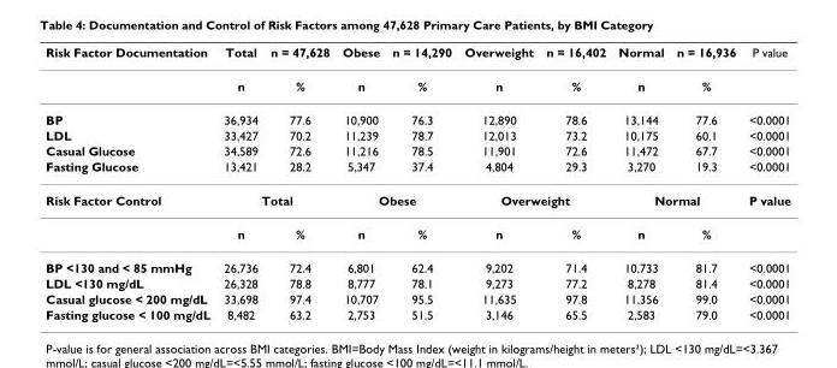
<table><thead><tr><td>Risk Factor Documentation</td><td>Total</td><td>n = 47,628</td><td>Obese</td><td>n = 14,290</td><td>Overweight</td><td>n = 16,402</td><td>Normal</td><td>n = 16,936</td><td>P value</td></tr></thead><tbody><tr><td></td><td>n</td><td>%</td><td>n</td><td>%</td><td>n</td><td>%</td><td>n</td><td>%</td><td></td></tr><tr><td>BP</td><td>36,934</td><td>77.6</td><td>10,900</td><td>76.3</td><td>12,890</td><td>78.6</td><td>13,144</td><td>77.6</td><td>&lt;0.0001</td></tr><tr><td>LDL</td><td>33,427</td><td>70.2</td><td>11,239</td><td>78.7</td><td>12,013</td><td>73.2</td><td>10,175</td><td>60.1</td><td>&lt;0.0001</td></tr><tr><td>Casual Glucose</td><td>34,589</td><td>72.6</td><td>11,216</td><td>78.5</td><td>11,901</td><td>72.6</td><td>11,472</td><td>67.7</td><td>&lt;0.0001</td></tr><tr><td>Fasting Glucose</td><td>13,421</td><td>28.2</td><td>5,347</td><td>37.4</td><td>4,804</td><td>29.3</td><td>3,270</td><td>19.3</td><td>&lt;0.0001</td></tr><tr><td rowspan="2">Risk Factor Control</td><td colspan="2">Total</td><td colspan="2">Obese</td><td colspan="2">Overweight</td><td colspan="2">Normal</td><td>P value</td></tr><tr><td>n</td><td>%</td><td>n</td><td>%</td><td>n</td><td>%</td><td>n</td><td>%</td><td></td></tr><tr><td>BP &lt;130 and &lt; 85 mmHg</td><td>26,736</td><td>72.4</td><td>6,801</td><td>62.4</td><td>9,202</td><td>71.4</td><td>10,733</td><td>81.7</td><td>&lt;0.0001</td></tr><tr><td>LDL &lt;130 mg/dL</td><td>26,328</td><td>78.8</td><td>8,777</td><td>78.1</td><td>9,273</td><td>77.2</td><td>8,278</td><td>81.4</td><td>&lt;0.0001</td></tr><tr><td>Casual glucose &lt; 200 mg/dL</td><td>33,698</td><td>97.4</td><td>10,707</td><td>95.5</td><td>11,635</td><td>97.8</td><td>11,356</td><td>99.0</td><td>&lt;0.0001</td></tr><tr><td>Fasting glucose &lt; 100 mg/dL</td><td>8,482</td><td>63.2</td><td>2,753</td><td>51.5</td><td>3,146</td><td>65.5</td><td>2,583</td><td>79.0</td><td>&lt;0.0001</td></tr></tbody></table>